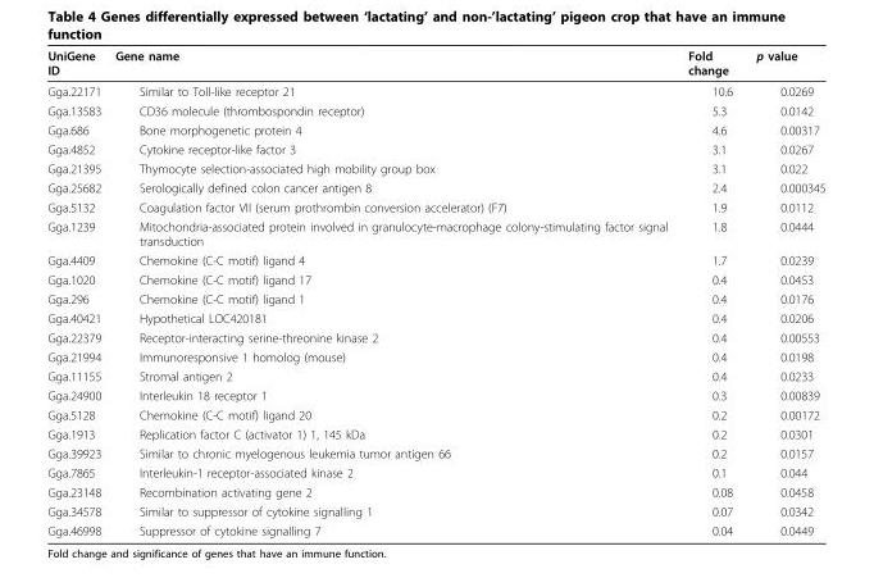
<table><thead><tr><td>UniGene ID</td><td>Gene name</td><td>Fold change</td><td>p value</td></tr></thead><tbody><tr><td>Gga.22171</td><td>Similar to Toll-like receptor 21</td><td>10.6</td><td>0.0269</td></tr><tr><td>Gga.13583</td><td>CD36 molecule (thrombospondin receptor)</td><td>5.3</td><td>0.0142</td></tr><tr><td>Gga.686</td><td>Bone morphogenetic protein 4</td><td>4.6</td><td>0.00317</td></tr><tr><td>Gga.4852</td><td>Cytokine receptor-like factor 3</td><td>3.1</td><td>0.0267</td></tr><tr><td>Gga.21395</td><td>Thymocyte selection-associated high mobility group box</td><td>3.1</td><td>0.022</td></tr><tr><td>Gga.25682</td><td>Serologically defined colon cancer antigen 8</td><td>2.4</td><td>0.000345</td></tr><tr><td>Gga.5132</td><td>Coagulation factor VII (serum prothrombin conversion accelerator) (F7)</td><td>1.9</td><td>0.0112</td></tr><tr><td>Gga.1239</td><td>Mitochondria-associated protein involved in granulocyte-macrophage colony-stimulating factor signal transduction</td><td>1.8</td><td>0.0444</td></tr><tr><td>Gga.4409</td><td>Chemokine (C-C motif) ligand 4</td><td>1.7</td><td>0.0239</td></tr><tr><td>Gga.1020</td><td>Chemokine (C-C motif) ligand 17</td><td>0.4</td><td>0.0453</td></tr><tr><td>Gga.296</td><td>Chemokine (C-C motif) ligand 1</td><td>0.4</td><td>0.0176</td></tr><tr><td>Gga.40421</td><td>Hypothetical LOC420181</td><td>0.4</td><td>0.0206</td></tr><tr><td>Gga.22379</td><td>Receptor-interacting serine-threonine kinase 2</td><td>0.4</td><td>0.00553</td></tr><tr><td>Gga.21994</td><td>Immunoresponsive 1 homolog (mouse)</td><td>0.4</td><td>0.0198</td></tr><tr><td>Gga.11155</td><td>Stromal antigen 2</td><td>0.4</td><td>0.0233</td></tr><tr><td>Gga.24900</td><td>Interleukin 18 receptor 1</td><td>0.3</td><td>0.00839</td></tr><tr><td>Gga.5128</td><td>Chemokine (C-C motif) ligand 20</td><td>0.2</td><td>0.00172</td></tr><tr><td>Gga.1913</td><td>Replication factor C (activator 1) 1, 145 kDa</td><td>0.2</td><td>0.0301</td></tr><tr><td>Gga.39923</td><td>Similar to chronic myelogenous leukemia tumor antigen 66</td><td>0.2</td><td>0.0157</td></tr><tr><td>Gga.7865</td><td>Interleukin-1 receptor-associated kinase 2</td><td>0.1</td><td>0.044</td></tr><tr><td>Gga.23148</td><td>Recombination activating gene 2</td><td>0.08</td><td>0.0458</td></tr><tr><td>Gga.34578</td><td>Similar to suppressor of cytokine signalling 1</td><td>0.07</td><td>0.0342</td></tr><tr><td>Gga.46998</td><td>Suppressor of cytokine signalling 7</td><td>0.04</td><td>0.0449</td></tr></tbody></table>